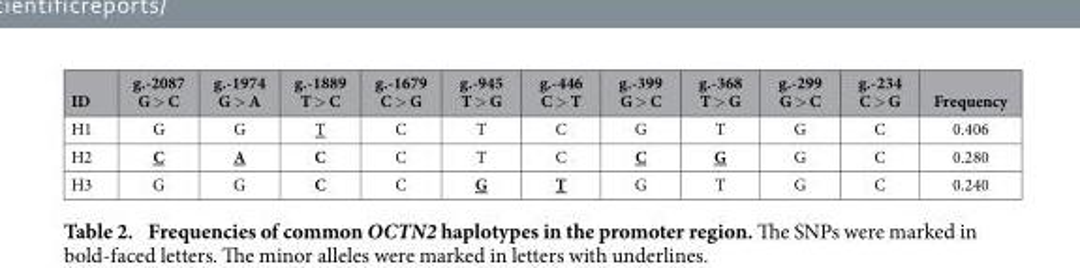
<table><thead><tr><td>ID</td><td>g.-2087 G &gt; C</td><td>g.-1974 G &gt; A</td><td>g.-1889 T &gt; C</td><td>g.-1679 C &gt; G</td><td>g.-945 T &gt; G</td><td>g.-446 C &gt; T</td><td>g.-399 G &gt; C</td><td>g.-368 T &gt; G</td><td>g.-299 G &gt; C</td><td>g.-234 C &gt; G</td><td>Frequency</td></tr></thead><tbody><tr><td>H1</td><td>G</td><td>G</td><td>T</td><td>C</td><td>T</td><td>C</td><td>G</td><td>T</td><td>G</td><td>C</td><td>0.406</td></tr><tr><td>H2</td><td>C</td><td>A</td><td>C</td><td>C</td><td>T</td><td>C</td><td>C</td><td>G</td><td>G</td><td>C</td><td>0.280</td></tr><tr><td>H3</td><td>G</td><td>G</td><td>C</td><td>C</td><td>G</td><td>T</td><td>G</td><td>T</td><td>G</td><td>C</td><td>0.240</td></tr></tbody></table>